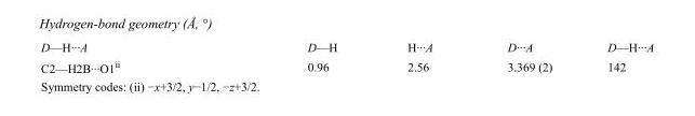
<table><tbody><tr><td>D—H···A</td><td>D—H</td><td>H···A</td><td>D···A</td><td>D—H···A</td></tr><tr><td>C2—H2B···O1<sup>ii</sup></td><td>0.96</td><td>2.56</td><td>3.369 (2)</td><td>142</td></tr></tbody></table>